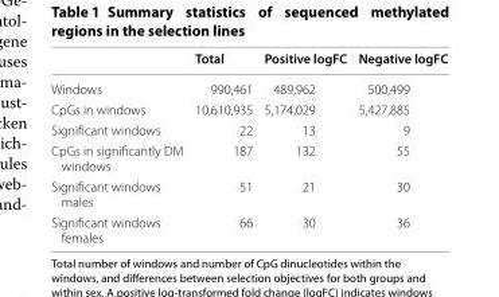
<table><thead><tr><td></td><td>Total</td><td>Positive logFC</td><td>Negative logFC</td></tr></thead><tbody><tr><td>Windows</td><td>990,461</td><td>489,962</td><td>500,499</td></tr><tr><td>CpGs in windows</td><td>10,610,935</td><td>5,174,029</td><td>5,427,885</td></tr><tr><td>Significant windows</td><td>22</td><td>13</td><td>9</td></tr><tr><td>CpGs in significantly DM windows</td><td>187</td><td>132</td><td>55</td></tr><tr><td>Significant windows males</td><td>51</td><td>21</td><td>30</td></tr><tr><td>Significant windows females</td><td>66</td><td>30</td><td>36</td></tr></tbody></table>